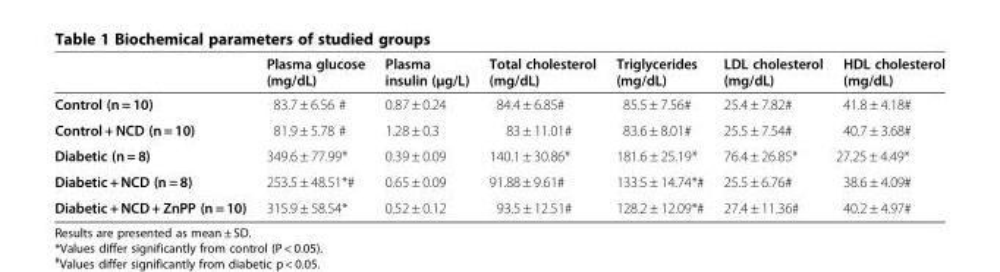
<table><thead><tr><td></td><td>Plasma glucose (mg/dL)</td><td>Plasma insulin (μg/L)</td><td>Total cholesterol (mg/dL)</td><td>Triglycerides (mg/dL)</td><td>LDL cholesterol (mg/dL)</td><td>HDL cholesterol (mg/dL)</td></tr></thead><tbody><tr><td>Control (n = 10)</td><td>83.7 ± 6.56 #</td><td>0.87 ± 0.24</td><td>84.4 ± 6.85#</td><td>85.5 ± 7.56#</td><td>25.4 ± 7.82#</td><td>41.8 ± 4.18#</td></tr><tr><td>Control + NCD (n = 10)</td><td>81.9 ± 5.78 #</td><td>1.28 ± 0.3</td><td>83 ± 11.01#</td><td>83.6 ± 8.01#</td><td>25.5 ± 7.54#</td><td>40.7 ± 3.68#</td></tr><tr><td>Diabetic (n = 8)</td><td>349.6 ± 77.99*</td><td>0.39 ± 0.09</td><td>140.1 ± 30.86*</td><td>181.6 ± 25.19*</td><td>76.4 ± 26.85*</td><td>27.25 ± 4.49*</td></tr><tr><td>Diabetic + NCD (n = 8)</td><td>253.5 ± 48.51*#</td><td>0.65 ± 0.09</td><td>91.88 ± 9.61#</td><td>133.5 ± 14.74*#</td><td>25.5 ± 6.76#</td><td>38.6 ± 4.09#</td></tr><tr><td>Diabetic + NCD + ZnPP (n = 10)</td><td>315.9 ± 58.54*</td><td>0.52 ± 0.12</td><td>93.5 ± 12.51#</td><td>128.2 ± 12.09*#</td><td>27.4 ± 11.36#</td><td>40.2 ± 4.97#</td></tr></tbody></table>